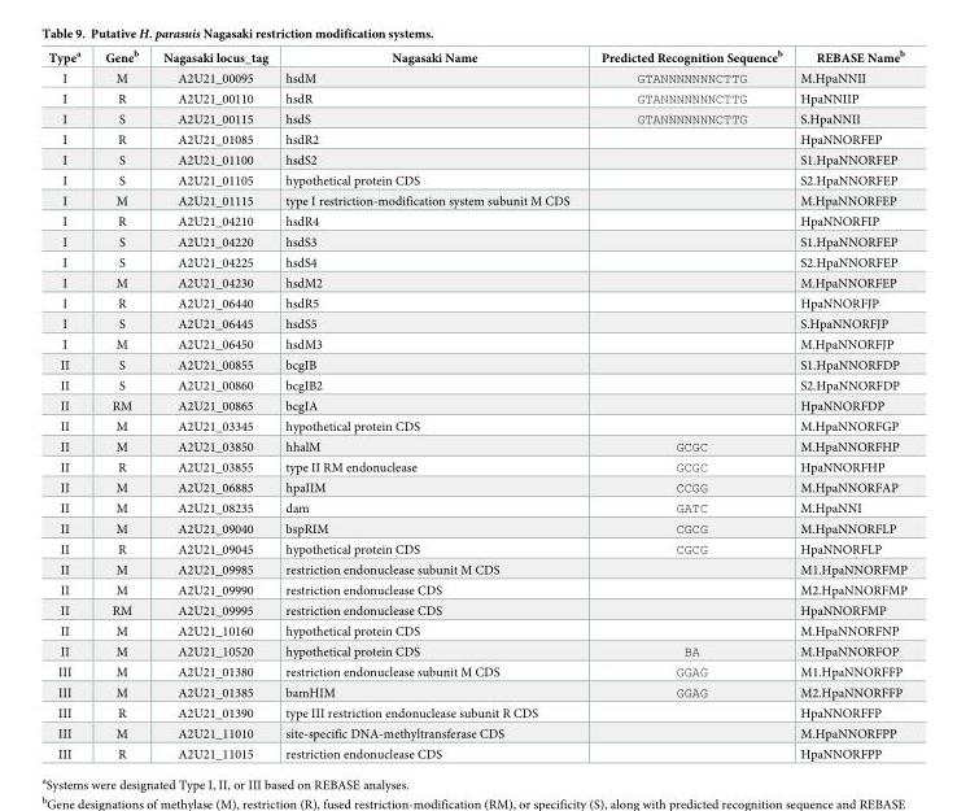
<table><thead><tr><td>Type<sup>a</sup></td><td>Gene<sup>b</sup></td><td>Nagasaki locus_tag</td><td>Nagasaki Name</td><td>Predicted Recognition Sequence<sup>b</sup></td><td>REBASE Name<sup>b</sup></td></tr></thead><tbody><tr><td>I</td><td>M</td><td>A2U21_00095</td><td>hsdM</td><td>GTANNNNNNNCTTG</td><td>M.HpaNNII</td></tr><tr><td>I</td><td>R</td><td>A2U21_00110</td><td>hsdR</td><td>GTANNNNNNNCTTG</td><td>HpaNNIIP</td></tr><tr><td>I</td><td>S</td><td>A2U21_00115</td><td>hsdS</td><td>GTANNNNNNNCTTG</td><td>S.HpaNNII</td></tr><tr><td>I</td><td>R</td><td>A2U21_01085</td><td>hsdR2</td><td></td><td>HpaNNORFEP</td></tr><tr><td>I</td><td>S</td><td>A2U21_01100</td><td>hsdS2</td><td></td><td>S1.HpaNNORFEP</td></tr><tr><td>I</td><td>S</td><td>A2U21_01105</td><td>hypothetical protein CDS</td><td></td><td>S2.HpaNNORFEP</td></tr><tr><td>I</td><td>M</td><td>A2U21_01115</td><td>type I restriction-modification system subunit M CDS</td><td></td><td>M.HpaNNORFEP</td></tr><tr><td>I</td><td>R</td><td>A2U21_04210</td><td>hsdR4</td><td></td><td>HpaNNORFIP</td></tr><tr><td>I</td><td>S</td><td>A2U21_04220</td><td>hsdS3</td><td></td><td>S1.HpaNNORFEP</td></tr><tr><td>I</td><td>S</td><td>A2U21_04225</td><td>hsdS4</td><td></td><td>S2.HpaNNORFEP</td></tr><tr><td>I</td><td>M</td><td>A2U21_04230</td><td>hsdM2</td><td></td><td>M.HpaNNORFEP</td></tr><tr><td>I</td><td>R</td><td>A2U21_06440</td><td>hsdR5</td><td></td><td>HpaNNORFJP</td></tr><tr><td>I</td><td>S</td><td>A2U21_06445</td><td>hsdS5</td><td></td><td>S.HpaNNORFJP</td></tr><tr><td>I</td><td>M</td><td>A2U21_06450</td><td>hsdM3</td><td></td><td>M.HpaNNORFJP</td></tr><tr><td>II</td><td>S</td><td>A2U21_00855</td><td>bcgIB</td><td></td><td>S1.HpaNNORFDP</td></tr><tr><td>II</td><td>S</td><td>A2U21_00860</td><td>bcgIB2</td><td></td><td>S2.HpaNNORFDP</td></tr><tr><td>II</td><td>RM</td><td>A2U21_00865</td><td>bcgIA</td><td></td><td>HpaNNORFDP</td></tr><tr><td>II</td><td>M</td><td>A2U21_03345</td><td>hypothetical protein CDS</td><td></td><td>M.HpaNNORFGP</td></tr><tr><td>II</td><td>M</td><td>A2U21_03850</td><td>hhalM</td><td>GCGC</td><td>M.HpaNNORFHP</td></tr><tr><td>II</td><td>R</td><td>A2U21_03855</td><td>type II RM endonuclease</td><td>GCGC</td><td>HpaNNORFHP</td></tr><tr><td>II</td><td>M</td><td>A2U21_06885</td><td>hpaIIM</td><td>CCGG</td><td>M.HpaNNORFAP</td></tr><tr><td>II</td><td>M</td><td>A2U21_08235</td><td>dam</td><td>GATC</td><td>M.HpaNNI</td></tr><tr><td>II</td><td>M</td><td>A2U21_09040</td><td>bspRIM</td><td>CGCG</td><td>M.HpaNNORFLP</td></tr><tr><td>II</td><td>R</td><td>A2U21_09045</td><td>hypothetical protein CDS</td><td>CGCG</td><td>HpaNNORFLP</td></tr><tr><td>II</td><td>M</td><td>A2U21_09985</td><td>restriction endonuclease subunit M CDS</td><td></td><td>M1.HpaNNORFMP</td></tr><tr><td>II</td><td>M</td><td>A2U21_09990</td><td>restriction endonuclease CDS</td><td></td><td>M2.HpaNNORFMP</td></tr><tr><td>II</td><td>RM</td><td>A2U21_09995</td><td>restriction endonuclease CDS</td><td></td><td>HpaNNORFMP</td></tr><tr><td>II</td><td>M</td><td>A2U21_10160</td><td>hypothetical protein CDS</td><td></td><td>M.HpaNNORFNP</td></tr><tr><td>II</td><td>M</td><td>A2U21_10520</td><td>hypothetical protein CDS</td><td>BA</td><td>M.HpaNNORFOP</td></tr><tr><td>III</td><td>M</td><td>A2U21_01380</td><td>restriction endonuclease subunit M CDS</td><td>GGAG</td><td>M1.HpaNNORFFP</td></tr><tr><td>III</td><td>M</td><td>A2U21_01385</td><td>bamHIM</td><td>GGAG</td><td>M2.HpaNNORFFP</td></tr><tr><td>III</td><td>R</td><td>A2U21_01390</td><td>type III restriction endonuclease subunit R CDS</td><td></td><td>HpaNNORFFP</td></tr><tr><td>III</td><td>M</td><td>A2U21_11010</td><td>site-specific DNA-methyltransferase CDS</td><td></td><td>M.HpaNNORFPP</td></tr><tr><td>III</td><td>R</td><td>A2U21_11015</td><td>restriction endonuclease CDS</td><td></td><td>HpaNNORFPP</td></tr></tbody></table>